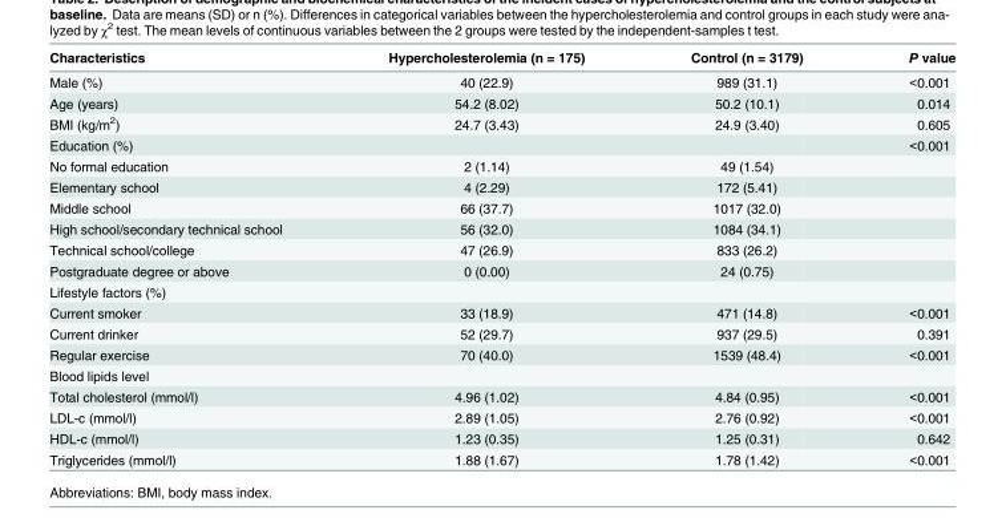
<table><thead><tr><td>Characteristics</td><td>Hypercholesterolemia (n = 175)</td><td>Control (n = 3179)</td><td>P value</td></tr></thead><tbody><tr><td>Male (%)</td><td>40 (22.9)</td><td>989 (31.1)</td><td>&lt;0.001</td></tr><tr><td>Age (years)</td><td>54.2 (8.02)</td><td>50.2 (10.1)</td><td>0.014</td></tr><tr><td>BMI (kg/m<sup>2</sup>)</td><td>24.7 (3.43)</td><td>24.9 (3.40)</td><td>0.605</td></tr><tr><td>Education (%)</td><td></td><td></td><td>&lt;0.001</td></tr><tr><td>No formal education</td><td>2 (1.14)</td><td>49 (1.54)</td><td></td></tr><tr><td>Elementary school</td><td>4 (2.29)</td><td>172 (5.41)</td><td></td></tr><tr><td>Middle school</td><td>66 (37.7)</td><td>1017 (32.0)</td><td></td></tr><tr><td>High school/secondary technical school</td><td>56 (32.0)</td><td>1084 (34.1)</td><td></td></tr><tr><td>Technical school/college</td><td>47 (26.9)</td><td>833 (26.2)</td><td></td></tr><tr><td>Postgraduate degree or above</td><td>0 (0.00)</td><td>24 (0.75)</td><td></td></tr><tr><td colspan="4">Lifestyle factors (%)</td></tr><tr><td>Current smoker</td><td>33 (18.9)</td><td>471 (14.8)</td><td>&lt;0.001</td></tr><tr><td>Current drinker</td><td>52 (29.7)</td><td>937 (29.5)</td><td>0.391</td></tr><tr><td>Regular exercise</td><td>70 (40.0)</td><td>1539 (48.4)</td><td>&lt;0.001</td></tr><tr><td colspan="4">Blood lipids level</td></tr><tr><td>Total cholesterol (mmol/l)</td><td>4.96 (1.02)</td><td>4.84 (0.95)</td><td>&lt;0.001</td></tr><tr><td>LDL-c (mmol/l)</td><td>2.89 (1.05)</td><td>2.76 (0.92)</td><td>&lt;0.001</td></tr><tr><td>HDL-c (mmol/l)</td><td>1.23 (0.35)</td><td>1.25 (0.31)</td><td>0.642</td></tr><tr><td>Triglycerides (mmol/l)</td><td>1.88 (1.67)</td><td>1.78 (1.42)</td><td>&lt;0.001</td></tr></tbody></table>